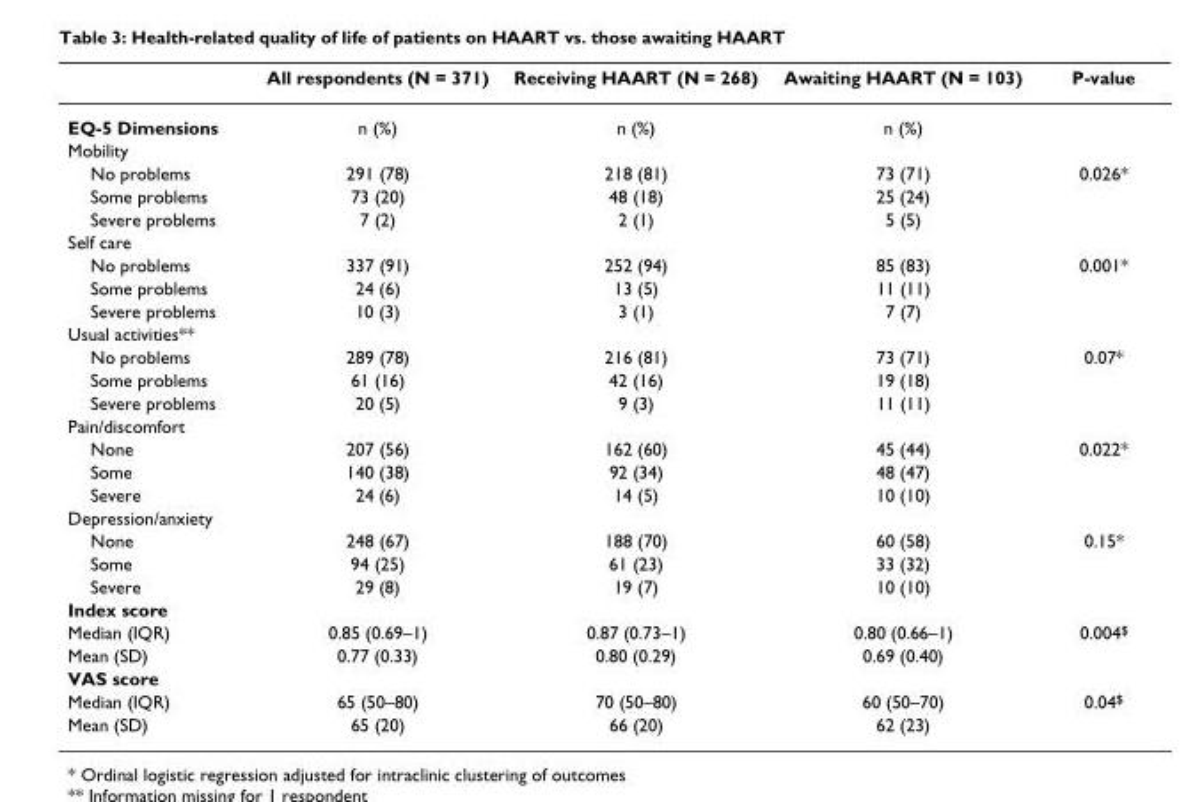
<table><thead><tr><td></td><td>All respondents (N = 371)</td><td>Receiving HAART (N = 268)</td><td>Awaiting HAART (N = 103)</td><td>P-value</td></tr></thead><tbody><tr><td>EQ-5 Dimensions</td><td>n (%)</td><td>n (%)</td><td>n (%)</td><td></td></tr><tr><td colspan="5">Mobility</td></tr><tr><td>No problems</td><td>291 (78)</td><td>218 (81)</td><td>73 (71)</td><td>0.026*</td></tr><tr><td>Some problems</td><td>73 (20)</td><td>48 (18)</td><td>25 (24)</td><td></td></tr><tr><td>Severe problems</td><td>7 (2)</td><td>2 (1)</td><td>5 (5)</td><td></td></tr><tr><td colspan="5">Self care</td></tr><tr><td>No problems</td><td>337 (91)</td><td>252 (94)</td><td>85 (83)</td><td>0.001*</td></tr><tr><td>Some problems</td><td>24 (6)</td><td>13 (5)</td><td>11 (11)</td><td></td></tr><tr><td>Severe problems</td><td>10 (3)</td><td>3 (1)</td><td>7 (7)</td><td></td></tr><tr><td colspan="5">Usual activities**</td></tr><tr><td>No problems</td><td>289 (78)</td><td>216 (81)</td><td>73 (71)</td><td>0.07*</td></tr><tr><td>Some problems</td><td>61 (16)</td><td>42 (16)</td><td>19 (18)</td><td></td></tr><tr><td>Severe problems</td><td>20 (5)</td><td>9 (3)</td><td>11 (11)</td><td></td></tr><tr><td colspan="5">Pain/discomfort</td></tr><tr><td>None</td><td>207 (56)</td><td>162 (60)</td><td>45 (44)</td><td>0.022*</td></tr><tr><td>Some</td><td>140 (38)</td><td>92 (34)</td><td>48 (47)</td><td></td></tr><tr><td>Severe</td><td>24 (6)</td><td>14 (5)</td><td>10 (10)</td><td></td></tr><tr><td colspan="5">Depression/anxiety</td></tr><tr><td>None</td><td>248 (67)</td><td>188 (70)</td><td>60 (58)</td><td>0.15*</td></tr><tr><td>Some</td><td>94 (25)</td><td>61 (23)</td><td>33 (32)</td><td></td></tr><tr><td>Severe</td><td>29 (8)</td><td>19 (7)</td><td>10 (10)</td><td></td></tr><tr><td colspan="5">Index score</td></tr><tr><td>Median (IQR)</td><td>0.85 (0.69–1)</td><td>0.87 (0.73–1)</td><td>0.80 (0.66–1)</td><td>0.004<sup>$</sup></td></tr><tr><td>Mean (SD)</td><td>0.77 (0.33)</td><td>0.80 (0.29)</td><td>0.69 (0.40)</td><td></td></tr><tr><td colspan="5">VAS score</td></tr><tr><td>Median (IQR)</td><td>65 (50–80)</td><td>70 (50–80)</td><td>60 (50–70)</td><td>0.04<sup>$</sup></td></tr><tr><td>Mean (SD)</td><td>65 (20)</td><td>66 (20)</td><td>62 (23)</td><td></td></tr></tbody></table>